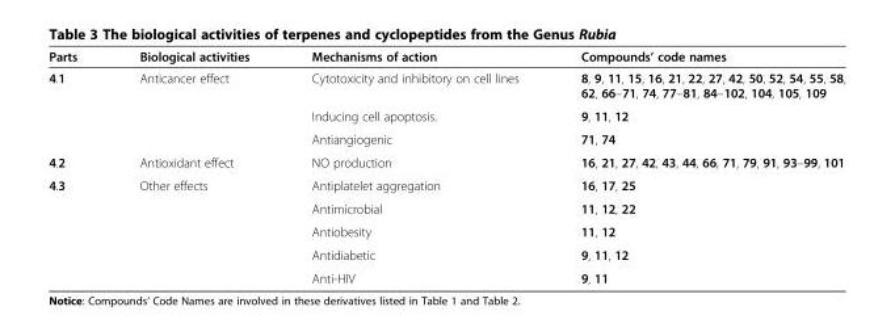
<table><thead><tr><td>Parts</td><td>Biological activities</td><td>Mechanisms of action</td><td>Compounds’ code names</td></tr></thead><tbody><tr><td rowspan="3">4.1</td><td rowspan="3">Anticancer effect</td><td>Cytotoxicity and inhibitory on cell lines</td><td>8, 9, 11, 15, 16, 21, 22, 27, 42, 50, 52, 54, 55, 58, 62, 66–71, 74, 77–81, 84–102, 104, 105, 109</td></tr><tr><td>Inducing cell apoptosis.</td><td>9, 11, 12</td></tr><tr><td>Antiangiogenic</td><td>71, 74</td></tr><tr><td>4.2</td><td>Antioxidant effect</td><td>NO production</td><td>16, 21, 27, 42, 43, 44, 66, 71, 79, 91, 93–99, 101</td></tr><tr><td rowspan="5">4.3</td><td rowspan="4">Other effects</td><td>Antiplatelet aggregation</td><td>16, 17, 25</td></tr><tr><td>Antimicrobial</td><td>11, 12, 22</td></tr><tr><td>Antiobesity</td><td>11, 12</td></tr><tr><td>Antidiabetic</td><td>9, 11, 12</td></tr><tr><td></td><td>Anti-HIV</td><td>9, 11</td></tr></tbody></table>